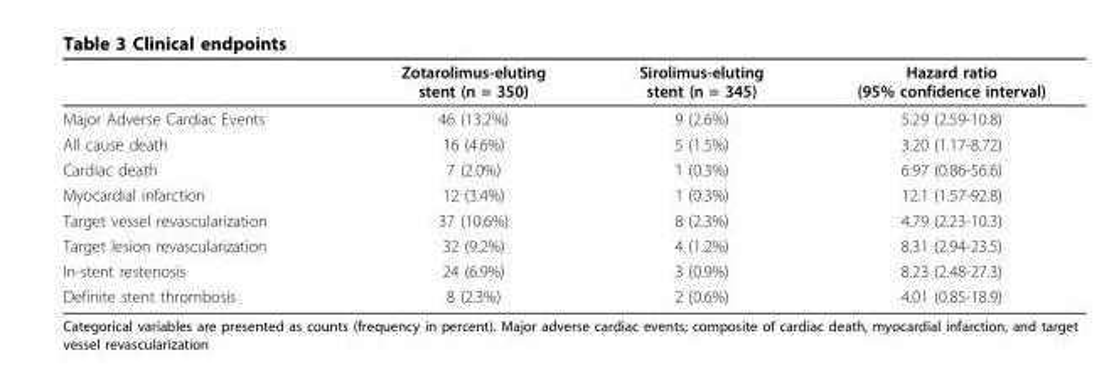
<table><thead><tr><td></td><td>Zotarolimus-eluting stent (n = 350)</td><td>Sirolimus-eluting stent (n = 345)</td><td>Hazard ratio (95% confidence interval)</td></tr></thead><tbody><tr><td>Major Adverse Cardiac Events</td><td>46 (13.2%)</td><td>9 (2.6%)</td><td>5.29 (2.59-10.8)</td></tr><tr><td>All cause death</td><td>16 (4.6%)</td><td>5 (1.5%)</td><td>3.20 (1.17-8.72)</td></tr><tr><td>Cardiac death</td><td>7 (2.0%)</td><td>1 (0.3%)</td><td>6.97 (0.86-56.6)</td></tr><tr><td>Myocardial infarction</td><td>12 (3.4%)</td><td>1 (0.3%)</td><td>12.1 (1.57-92.8)</td></tr><tr><td>Target vessel revascularization</td><td>37 (10.6%)</td><td>8 (2.3%)</td><td>4.79 (2.23-10.3)</td></tr><tr><td>Target lesion revascularization</td><td>32 (9.2%)</td><td>4 (1.2%)</td><td>8.31 (2.94-23.5)</td></tr><tr><td>In-stent restenosis</td><td>24 (6.9%)</td><td>3 (0.9%)</td><td>8.23 (2.48-27.3)</td></tr><tr><td>Definite stent thrombosis</td><td>8 (2.3%)</td><td>2 (0.6%)</td><td>4.01 (0.85-18.9)</td></tr></tbody></table>